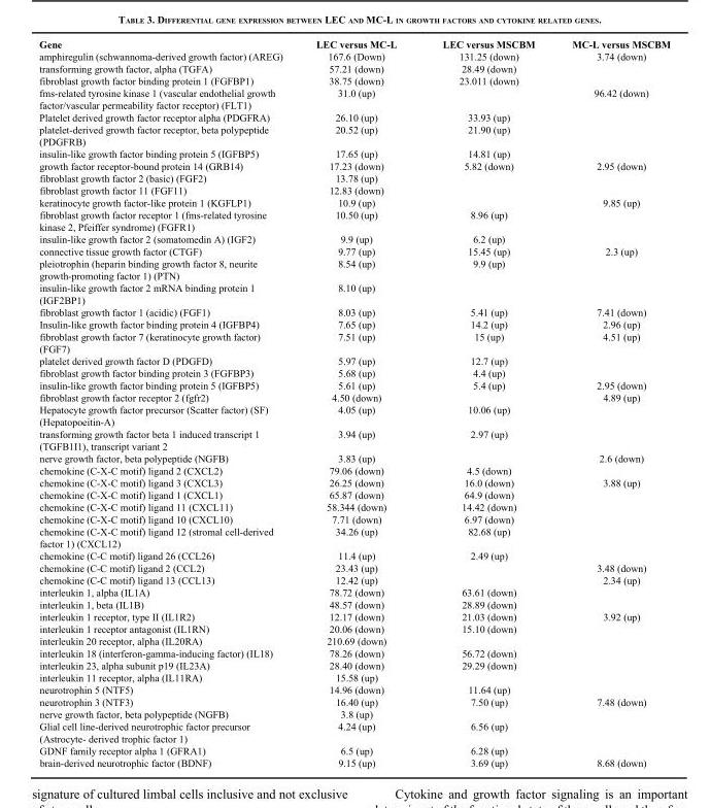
<table><thead><tr><td>Gene</td><td>LEC versus MC-L</td><td>LEC versus MSCBM</td><td>MC-L versus MSCBM</td></tr></thead><tbody><tr><td>amphiregulin (schwannoma-derived growth factor) (AREG)</td><td>167.6 (Down)</td><td>131.25 (down)</td><td>3.74 (down)</td></tr><tr><td>transforming growth factor, alpha (TGFA)</td><td>57.21 (down)</td><td>28.49 (down)</td><td></td></tr><tr><td>fibroblast growth factor binding protein 1 (FGFBP1)</td><td>38.75 (down)</td><td>23.011 (down)</td><td></td></tr><tr><td>fms-related tyrosine kinase 1 (vascular endothelial growth factor/vascular permeability factor receptor) (FLT1)</td><td>31.0 (up)</td><td></td><td>96.42 (down)</td></tr><tr><td>Platelet derived growth factor receptor alpha (PDGFRA)</td><td>26.10 (up)</td><td>33.93 (up)</td><td></td></tr><tr><td>platelet-derived growth factor receptor, beta polypeptide (PDGFRB)</td><td>20.52 (up)</td><td>21.90 (up)</td><td></td></tr><tr><td>insulin-like growth factor binding protein 5 (IGFBP5)</td><td>17.65 (up)</td><td>14.81 (up)</td><td></td></tr><tr><td>growth factor receptor-bound protein 14 (GRB14)</td><td>17.23 (down)</td><td>5.82 (down)</td><td>2.95 (down)</td></tr><tr><td>fibroblast growth factor 2 (basic) (FGF2)</td><td>13.78 (up)</td><td></td><td></td></tr><tr><td>fibroblast growth factor 11 (FGF11)</td><td>12.83 (down)</td><td></td><td></td></tr><tr><td>keratinocyte growth factor-like protein 1 (KGFLP1)</td><td>10.9 (up)</td><td></td><td>9.85 (up)</td></tr><tr><td>fibroblast growth factor receptor 1 (fms-related tyrosine kinase 2, Pfeiffer syndrome) (FGFR1)</td><td>10.50 (up)</td><td>8.96 (up)</td><td></td></tr><tr><td>insulin-like growth factor 2 (somatomedin A) (IGF2)</td><td>9.9 (up)</td><td>6.2 (up)</td><td></td></tr><tr><td>connective tissue growth factor (CTGF)</td><td>9.77 (up)</td><td>15.45 (up)</td><td>2.3 (up)</td></tr><tr><td>pleiotrophin (heparin binding growth factor 8, neurite growth-promoting factor 1) (PTN)</td><td>8.54 (up)</td><td>9.9 (up)</td><td></td></tr><tr><td>insulin-like growth factor 2 mRNA binding protein 1 (IGF2BP1)</td><td>8.10 (up)</td><td></td><td></td></tr><tr><td>fibroblast growth factor 1 (acidic) (FGF1)</td><td>8.03 (up)</td><td>5.41 (up)</td><td>7.41 (down)</td></tr><tr><td>Insulin-like growth factor binding protein 4 (IGFBP4)</td><td>7.65 (up)</td><td>14.2 (up)</td><td>2.96 (up)</td></tr><tr><td>fibroblast growth factor 7 (keratinocyte growth factor) (FGF7)</td><td>7.51 (up)</td><td>15 (up)</td><td>4.51 (up)</td></tr><tr><td>platelet derived growth factor D (PDGFD)</td><td>5.97 (up)</td><td>12.7 (up)</td><td></td></tr><tr><td>fibroblast growth factor binding protein 3 (FGFBP3)</td><td>5.68 (up)</td><td>4.4 (up)</td><td></td></tr><tr><td>insulin-like growth factor binding protein 5 (IGFBP5)</td><td>5.61 (up)</td><td>5.4 (up)</td><td>2.95 (down)</td></tr><tr><td>fibroblast growth factor receptor 2 (fgfr2)</td><td>4.50 (down)</td><td></td><td>4.89 (up)</td></tr><tr><td>Hepatocyte growth factor precursor (Scatter factor) (SF) (Hepatopoeitin-A)</td><td>4.05 (up)</td><td>10.06 (up)</td><td></td></tr><tr><td>transforming growth factor beta 1 induced transcript 1 (TGFB1I1), transcript variant 2</td><td>3.94 (up)</td><td>2.97 (up)</td><td></td></tr><tr><td>nerve growth factor, beta polypeptide (NGFB)</td><td>3.83 (up)</td><td></td><td>2.6 (down)</td></tr><tr><td>chemokine (C-X-C motif) ligand 2 (CXCL2)</td><td>79.06 (down)</td><td>4.5 (down)</td><td></td></tr><tr><td>chemokine (C-X-C motif) ligand 3 (CXCL3)</td><td>26.25 (down)</td><td>16.0 (down)</td><td>3.88 (up)</td></tr><tr><td>chemokine (C-X-C motif) ligand 1 (CXCL1)</td><td>65.87 (down)</td><td>64.9 (down)</td><td></td></tr><tr><td>chemokine (C-X-C motif) ligand 11 (CXCL11)</td><td>58.344 (down)</td><td>14.42 (down)</td><td></td></tr><tr><td>chemokine (C-X-C motif) ligand 10 (CXCL10)</td><td>7.71 (down)</td><td>6.97 (down)</td><td></td></tr><tr><td>chemokine (C-X-C motif) ligand 12 (stromal cell-derived factor 1) (CXCL12)</td><td>34.26 (up)</td><td>82.68 (up)</td><td></td></tr><tr><td>chemokine (C-C motif) ligand 26 (CCL26)</td><td>11.4 (up)</td><td>2.49 (up)</td><td></td></tr><tr><td>chemokine (C-C motif) ligand 2 (CCL2)</td><td>23.43 (up)</td><td></td><td>3.48 (down)</td></tr><tr><td>chemokine (C-C motif) ligand 13 (CCL13)</td><td>12.42 (up)</td><td></td><td>2.34 (up)</td></tr><tr><td>interleukin 1, alpha (IL1A)</td><td>78.72 (down)</td><td>63.61 (down)</td><td></td></tr><tr><td>interleukin 1, beta (IL1B)</td><td>48.57 (down)</td><td>28.89 (down)</td><td></td></tr><tr><td>interleukin 1 receptor, type II (IL1R2)</td><td>12.17 (down)</td><td>21.03 (down)</td><td>3.92 (up)</td></tr><tr><td>interleukin 1 receptor antagonist (IL1RN)</td><td>20.06 (down)</td><td>15.10 (down)</td><td></td></tr><tr><td>interleukin 20 receptor, alpha (IL20RA)</td><td>210.69 (down)</td><td></td><td></td></tr><tr><td>interleukin 18 (interferon-gamma-inducing factor) (IL18)</td><td>78.26 (down)</td><td>56.72 (down)</td><td></td></tr><tr><td>interleukin 23, alpha subunit p19 (IL23A)</td><td>28.40 (down)</td><td>29.29 (down)</td><td></td></tr><tr><td>interleukin 11 receptor, alpha (IL11RA)</td><td>15.58 (up)</td><td></td><td></td></tr><tr><td>neurotrophin 5 (NTF5)</td><td>14.96 (down)</td><td>11.64 (up)</td><td></td></tr><tr><td>neurotrophin 3 (NTF3)</td><td>16.40 (up)</td><td>7.50 (up)</td><td>7.48 (down)</td></tr><tr><td>nerve growth factor, beta polypeptide (NGFB)</td><td>3.8 (up)</td><td></td><td></td></tr><tr><td>Glial cell line-derived neurotrophic factor precursor (Astrocyte- derived trophic factor 1)</td><td>4.24 (up)</td><td>6.56 (up)</td><td></td></tr><tr><td>GDNF family receptor alpha 1 (GFRA1)</td><td>6.5 (up)</td><td>6.28 (up)</td><td></td></tr><tr><td>brain-derived neurotrophic factor (BDNF)</td><td>9.15 (up)</td><td>3.69 (up)</td><td>8.68 (down)</td></tr></tbody></table>